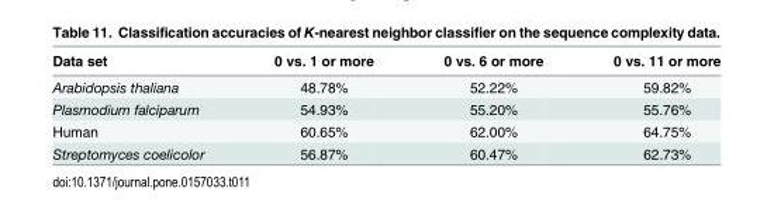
<table><thead><tr><td>Data set</td><td>0 vs. 1 or more</td><td>0 vs. 6 or more</td><td>0 vs. 11 or more</td></tr></thead><tbody><tr><td>Arabidopsis thaliana</td><td>48.78%</td><td>52.22%</td><td>59.82%</td></tr><tr><td>Plasmodium falciparum</td><td>54.93%</td><td>55.20%</td><td>55.76%</td></tr><tr><td>Human</td><td>60.65%</td><td>62.00%</td><td>64.75%</td></tr><tr><td>Streptomyces coelicolor</td><td>56.87%</td><td>60.47%</td><td>62.73%</td></tr></tbody></table>